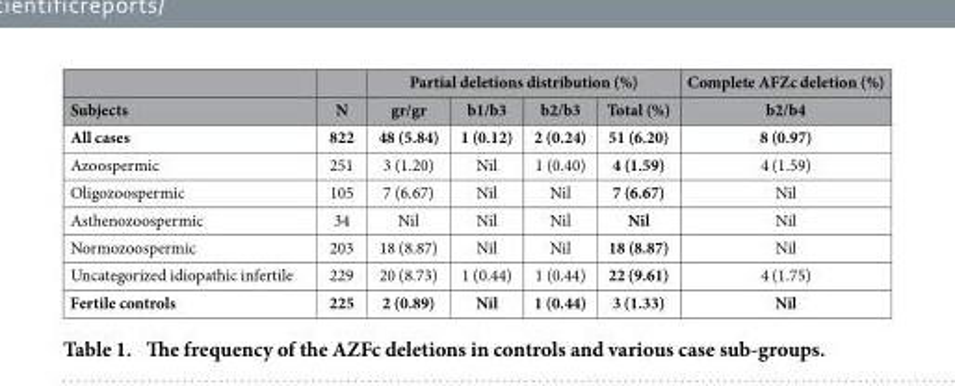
<table><thead><tr><td rowspan="2">Subjects</td><td rowspan="2">N</td><td colspan="4">Partial deletions distribution (%)</td><td rowspan="2">Complete AFZc deletion (%) b2/b4</td></tr><tr><td>gr/gr</td><td>b1/b3</td><td>b2/b3</td><td>Total (%)</td></tr></thead><tbody><tr><td>All cases</td><td>822</td><td>48 (5.84)</td><td>1 (0.12)</td><td>2 (0.24)</td><td>51 (6.20)</td><td>8 (0.97)</td></tr><tr><td>Azoospermic</td><td>251</td><td>3 (1.20)</td><td>Nil</td><td>1 (0.40)</td><td>4 (1.59)</td><td>4 (1.59)</td></tr><tr><td>Oligozoospermic</td><td>105</td><td>7 (6.67)</td><td>Nil</td><td>Nil</td><td>7 (6.67)</td><td>Nil</td></tr><tr><td>Asthenozoospermic</td><td>34</td><td>Nil</td><td>Nil</td><td>Nil</td><td>Nil</td><td>Nil</td></tr><tr><td>Normozoospermic</td><td>203</td><td>18 (8.87)</td><td>Nil</td><td>Nil</td><td>18 (8.87)</td><td>Nil</td></tr><tr><td>Uncategorized idiopathic infertile</td><td>229</td><td>20 (8.73)</td><td>1 (0.44)</td><td>1 (0.44)</td><td>22 (9.61)</td><td>4 (1.75)</td></tr><tr><td>Fertile controls</td><td>225</td><td>2 (0.89)</td><td>Nil</td><td>1 (0.44)</td><td>3 (1.33)</td><td>Nil</td></tr></tbody></table>